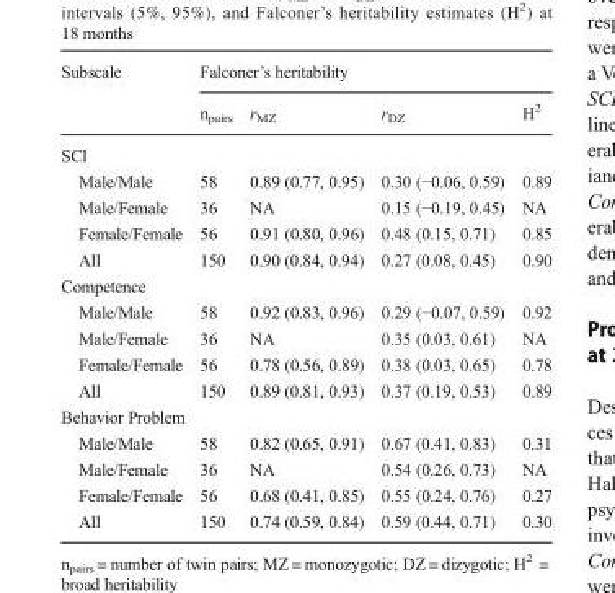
<table><thead><tr><td rowspan="2">Subscale</td><td colspan="4">Falconer’s heritability</td></tr><tr><td>n<sub>pairs</sub></td><td>r<sub>MZ</sub></td><td>r<sub>DZ</sub></td><td>H<sup>2</sup></td></tr></thead><tbody><tr><td colspan="5">SCI</td></tr><tr><td>Male/Male</td><td>58</td><td>0.89 (0.77, 0.95)</td><td>0.30 (−0.06, 0.59)</td><td>0.89</td></tr><tr><td>Male/Female</td><td>36</td><td>NA</td><td>0.15 (−0.19, 0.45)</td><td>NA</td></tr><tr><td>Female/Female</td><td>56</td><td>0.91 (0.80, 0.96)</td><td>0.48 (0.15, 0.71)</td><td>0.85</td></tr><tr><td>All</td><td>150</td><td>0.90 (0.84, 0.94)</td><td>0.27 (0.08, 0.45)</td><td>0.90</td></tr><tr><td colspan="5">Competence</td></tr><tr><td>Male/Male</td><td>58</td><td>0.92 (0.83, 0.96)</td><td>0.29 (−0.07, 0.59)</td><td>0.92</td></tr><tr><td>Male/Female</td><td>36</td><td>NA</td><td>0.35 (0.03, 0.61)</td><td>NA</td></tr><tr><td>Female/Female</td><td>56</td><td>0.78 (0.56, 0.89)</td><td>0.38 (0.03, 0.65)</td><td>0.78</td></tr><tr><td>All</td><td>150</td><td>0.89 (0.81, 0.93)</td><td>0.37 (0.19, 0.53)</td><td>0.89</td></tr><tr><td colspan="5">Behavior Problem</td></tr><tr><td>Male/Male</td><td>58</td><td>0.82 (0.65, 0.91)</td><td>0.67 (0.41, 0.83)</td><td>0.31</td></tr><tr><td>Male/Female</td><td>36</td><td>NA</td><td>0.54 (0.26, 0.73)</td><td>NA</td></tr><tr><td>Female/Female</td><td>56</td><td>0.68 (0.41, 0.85)</td><td>0.55 (0.24, 0.76)</td><td>0.27</td></tr><tr><td>All</td><td>150</td><td>0.74 (0.59, 0.84)</td><td>0.59 (0.44, 0.71)</td><td>0.30</td></tr></tbody></table>